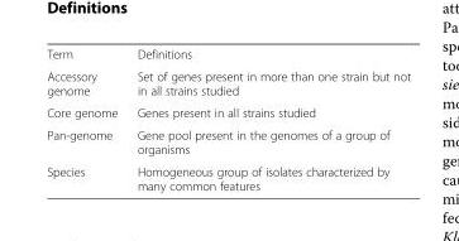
<table><tbody><tr><td>Term</td><td>Definitions</td></tr><tr><td>Accessory genome</td><td>Set of genes present in more than one strain but not in all strains studied</td></tr><tr><td>Core genome</td><td>Genes present in all strains studied</td></tr><tr><td>Pan-genome</td><td>Gene pool present in the genomes of a group of organisms</td></tr><tr><td>Species</td><td>Homogeneous group of isolates characterized by many common features</td></tr></tbody></table>